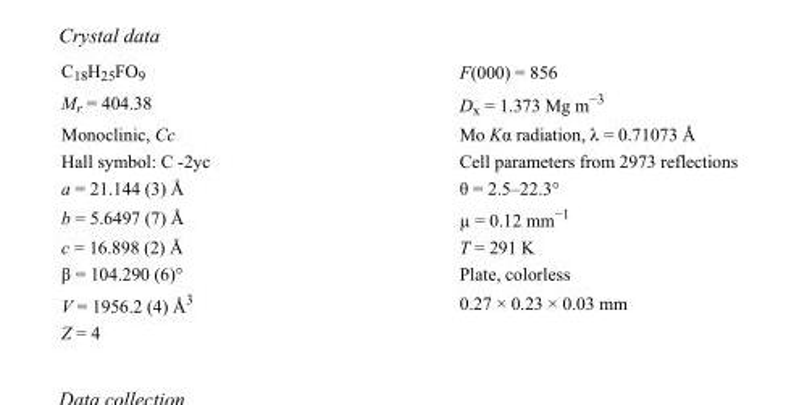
<table><tbody><tr><td>C<sub>18</sub>H<sub>25</sub>FO<sub>9</sub></td><td>F(000) = 856</td></tr><tr><td>M<sub>r</sub> = 404.38</td><td>D<sub>x</sub> = 1.373 Mg m<sup>−3</sup></td></tr><tr><td>Monoclinic, Cc</td><td>Mo Kα radiation, λ = 0.71073 Å</td></tr><tr><td>Hall symbol: C -2yc</td><td>Cell parameters from 2973 reflections</td></tr><tr><td>a = 21.144 (3) Å</td><td>θ = 2.5–22.3°</td></tr><tr><td>b = 5.6497 (7) Å</td><td>µ = 0.12 mm<sup>−1</sup></td></tr><tr><td>c = 16.898 (2) Å</td><td>T = 291 K</td></tr><tr><td>β = 104.290 (6)°</td><td>Plate, colorless</td></tr><tr><td>V = 1956.2 (4) Å<sup>3</sup></td><td>0.27 × 0.23 × 0.03 mm</td></tr><tr><td>Z = 4</td><td></td></tr></tbody></table>